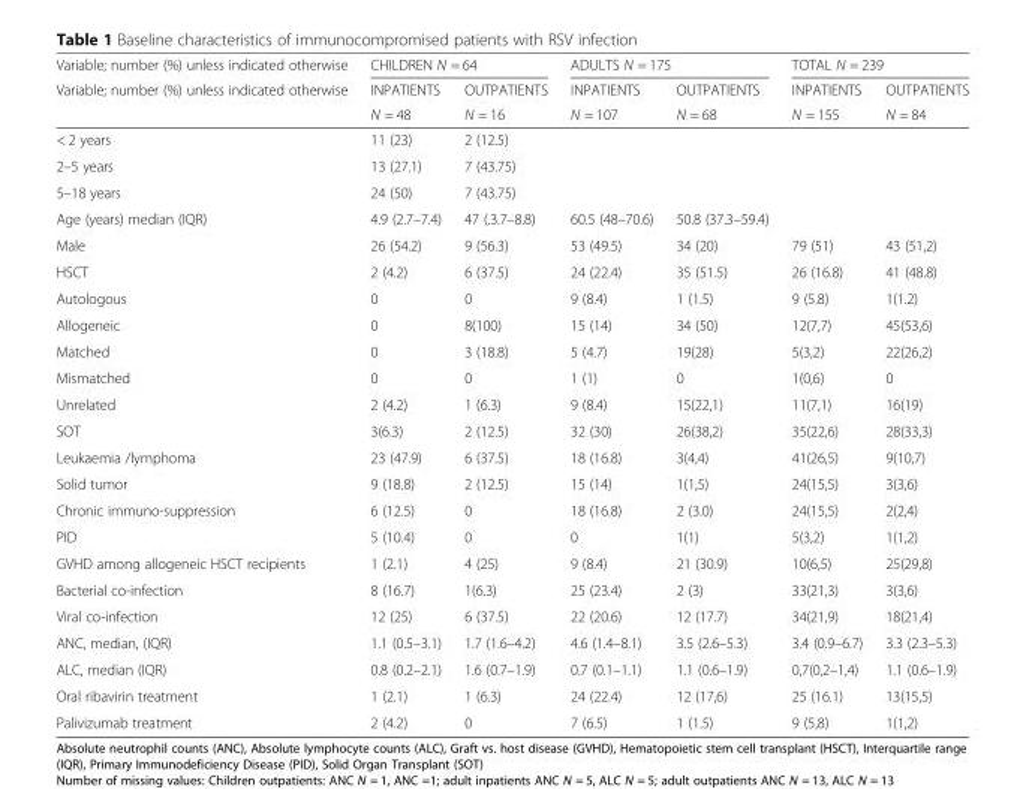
<table><thead><tr><td rowspan="3">Variable; number (%) unless indicated otherwise Variable; number (%) unless indicated otherwise</td><td colspan="2">CHILDREN N = 64</td><td colspan="2">ADULTS N = 175</td><td colspan="2">TOTAL N = 239</td></tr><tr><td rowspan="2">INPATIENTS N = 48</td><td rowspan="2">OUTPATIENTS N = 16</td><td rowspan="2">INPATIENTS N = 107</td><td rowspan="2">OUTPATIENTS N = 68</td><td rowspan="2">INPATIENTS N = 155</td><td rowspan="2">OUTPATIENTS N = 84</td></tr><tr></tr></thead><tbody><tr><td>&lt; 2 years</td><td>11 (23)</td><td>2 (12.5)</td><td></td><td></td><td></td><td></td></tr><tr><td>2–5 years</td><td>13 (27.1)</td><td>7 (43.75)</td><td></td><td></td><td></td><td></td></tr><tr><td>5–18 years</td><td>24 (50)</td><td>7 (43.75)</td><td></td><td></td><td></td><td></td></tr><tr><td>Age (years) median (IQR)</td><td>4.9 (2.7–7.4)</td><td>47 (.3.7–8.8)</td><td>60.5 (48–70.6)</td><td>50.8 (37.3–59.4)</td><td></td><td></td></tr><tr><td>Male</td><td>26 (54.2)</td><td>9 (56.3)</td><td>53 (49.5)</td><td>34 (20)</td><td>79 (51)</td><td>43 (51,2)</td></tr><tr><td>HSCT</td><td>2 (4.2)</td><td>6 (37.5)</td><td>24 (22.4)</td><td>35 (51.5)</td><td>26 (16.8)</td><td>41 (48.8)</td></tr><tr><td>Autologous</td><td>0</td><td>0</td><td>9 (8.4)</td><td>1 (1.5)</td><td>9 (5.8)</td><td>1(1.2)</td></tr><tr><td>Allogeneic</td><td>0</td><td>8(100)</td><td>15 (14)</td><td>34 (50)</td><td>12(7,7)</td><td>45(53,6)</td></tr><tr><td>Matched</td><td>0</td><td>3 (18.8)</td><td>5 (4.7)</td><td>19(28)</td><td>5(3,2)</td><td>22(26,2)</td></tr><tr><td>Mismatched</td><td>0</td><td>0</td><td>1 (1)</td><td>0</td><td>1(0,6)</td><td>0</td></tr><tr><td>Unrelated</td><td>2 (4.2)</td><td>1 (6.3)</td><td>9 (8.4)</td><td>15(22,1)</td><td>11(7,1)</td><td>16(19)</td></tr><tr><td>SOT</td><td>3(6.3)</td><td>2 (12.5)</td><td>32 (30)</td><td>26(38,2)</td><td>35(22,6)</td><td>28(33,3)</td></tr><tr><td>Leukaemia /lymphoma</td><td>23 (47.9)</td><td>6 (37.5)</td><td>18 (16.8)</td><td>3(4,4)</td><td>41(26,5)</td><td>9(10,7)</td></tr><tr><td>Solid tumor</td><td>9 (18.8)</td><td>2 (12.5)</td><td>15 (14)</td><td>1(1,5)</td><td>24(15,5)</td><td>3(3,6)</td></tr><tr><td>Chronic immuno-suppression</td><td>6 (12.5)</td><td>0</td><td>18 (16.8)</td><td>2 (3.0)</td><td>24(15,5)</td><td>2(2,4)</td></tr><tr><td>PID</td><td>5 (10.4)</td><td>0</td><td>0</td><td>1(1)</td><td>5(3,2)</td><td>1(1,2)</td></tr><tr><td>GVHD among allogeneic HSCT recipients</td><td>1 (2.1)</td><td>4 (25)</td><td>9 (8.4)</td><td>21 (30.9)</td><td>10(6,5)</td><td>25(29,8)</td></tr><tr><td>Bacterial co-infection</td><td>8 (16.7)</td><td>1(6.3)</td><td>25 (23.4)</td><td>2 (3)</td><td>33(21,3)</td><td>3(3,6)</td></tr><tr><td>Viral co-infection</td><td>12 (25)</td><td>6 (37.5)</td><td>22 (20.6)</td><td>12 (17.7)</td><td>34(21,9)</td><td>18(21,4)</td></tr><tr><td>ANC, median, (IQR)</td><td>1.1 (0.5–3.1)</td><td>1.7 (1.6–4.2)</td><td>4.6 (1.4–8.1)</td><td>3.5 (2.6–5.3)</td><td>3.4 (0.9–6.7)</td><td>3.3 (2.3–5.3)</td></tr><tr><td>ALC, median (IQR)</td><td>0.8 (0.2–2.1)</td><td>1.6 (0.7–1.9)</td><td>0.7 (0.1–1.1)</td><td>1.1 (0.6–1.9)</td><td>0,7(0,2–1,4)</td><td>1.1 (0.6–1.9)</td></tr><tr><td>Oral ribavirin treatment</td><td>1 (2.1)</td><td>1 (6.3)</td><td>24 (22.4)</td><td>12 (17,6)</td><td>25 (16.1)</td><td>13(15,5)</td></tr><tr><td>Palivizumab treatment</td><td>2 (4.2)</td><td>0</td><td>7 (6.5)</td><td>1 (1.5)</td><td>9 (5,8)</td><td>1(1,2)</td></tr></tbody></table>